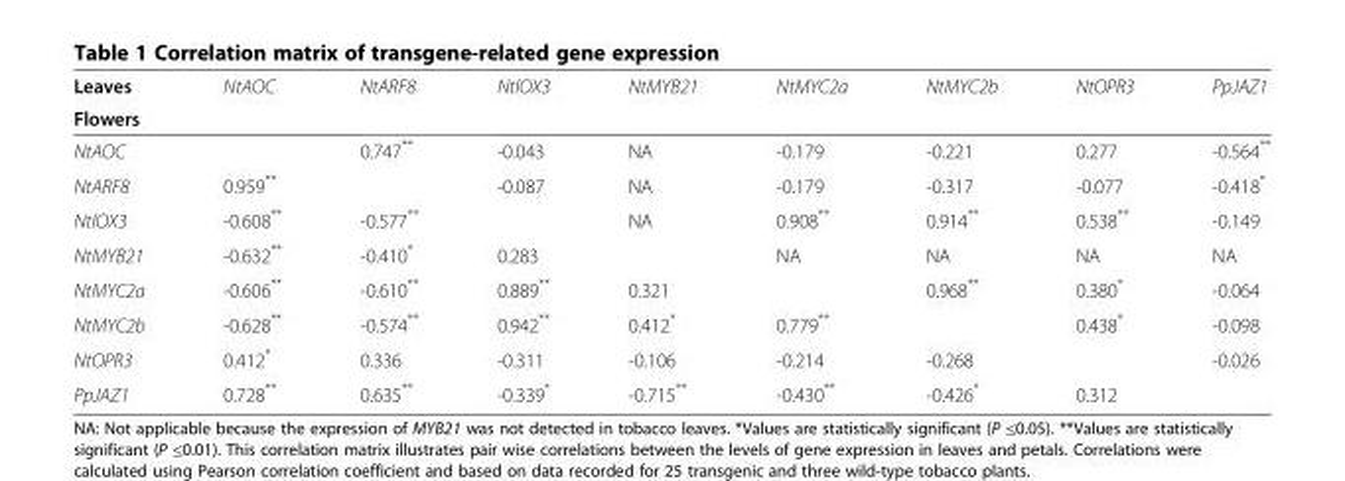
<table><thead><tr><td rowspan="2">Leaves Flowers</td><td rowspan="2">NtAOC</td><td rowspan="2">NtARF8</td><td rowspan="2">NtlOX3</td><td rowspan="2">NtMYB21</td><td rowspan="2">NtMYC2a</td><td rowspan="2">NtMYC2b</td><td rowspan="2">NtOPR3</td><td rowspan="2">PpJAZ1</td></tr><tr></tr></thead><tbody><tr><td>NtAOC</td><td></td><td>0.747**</td><td>-0.043</td><td>NA</td><td>-0.179</td><td>-0.221</td><td>0.277</td><td>-0.564**</td></tr><tr><td>NtARF8</td><td>0.959**</td><td></td><td>-0.087</td><td>NA</td><td>-0.179</td><td>-0.317</td><td>-0.077</td><td>-0.418*</td></tr><tr><td>NtlOX3</td><td>-0.608**</td><td>-0.577**</td><td></td><td>NA</td><td>0.908**</td><td>0.914**</td><td>0.538**</td><td>-0.149</td></tr><tr><td>NtMYB21</td><td>-0.632**</td><td>-0.410*</td><td>0.283</td><td></td><td>NA</td><td>NA</td><td>NA</td><td>NA</td></tr><tr><td>NtMYC2a</td><td>-0.606**</td><td>-0.610**</td><td>0.889**</td><td>0.321</td><td></td><td>0.968**</td><td>0.380*</td><td>-0.064</td></tr><tr><td>NtMYC2b</td><td>-0.628**</td><td>-0.574**</td><td>0.942**</td><td>0.412*</td><td>0.779**</td><td></td><td>0.438*</td><td>-0.098</td></tr><tr><td>NtOPR3</td><td>0.412*</td><td>0.336</td><td>-0.311</td><td>-0.106</td><td>-0.214</td><td>-0.268</td><td></td><td>-0.026</td></tr><tr><td>PpJAZ1</td><td>0.728**</td><td>0.635**</td><td>-0.339*</td><td>-0.715**</td><td>-0.430**</td><td>-0.426*</td><td>0.312</td><td></td></tr></tbody></table>